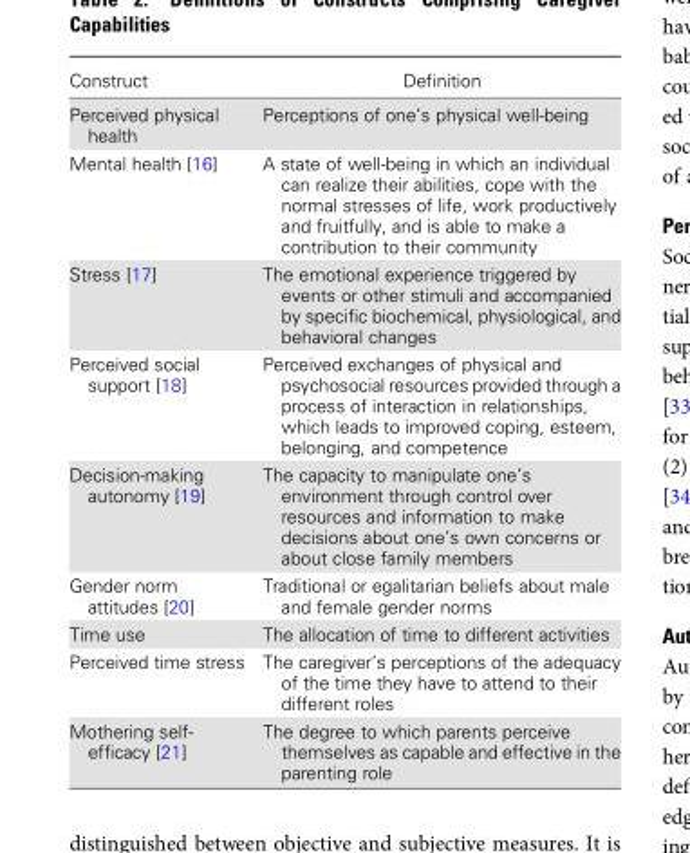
<table><thead><tr><td>Construct</td><td>Definition</td></tr></thead><tbody><tr><td>Perceived physical health</td><td>Perceptions of one’s physical well-being</td></tr><tr><td>Mental health [16]</td><td>A state of well-being in which an individual can realize their abilities, cope with the normal stresses of life, work productively and fruitfully, and is able to make a contribution to their community</td></tr><tr><td>Stress [17]</td><td>The emotional experience triggered by events or other stimuli and accompanied by specific biochemical, physiological, and behavioral changes</td></tr><tr><td>Perceived social support [18]</td><td>Perceived exchanges of physical and psychosocial resources provided through a process of interaction in relationships, which leads to improved coping, esteem, belonging, and competence</td></tr><tr><td>Decision-making autonomy [19]</td><td>The capacity to manipulate one’s environment through control over resources and information to make decisions about one’s own concerns or about close family members</td></tr><tr><td>Gender norm attitudes [20]</td><td>Traditional or egalitarian beliefs about male and female gender norms</td></tr><tr><td>Time use</td><td>The allocation of time to different activities</td></tr><tr><td>Perceived time stress</td><td>The caregiver’s perceptions of the adequacy of the time they have to attend to their different roles</td></tr><tr><td>Mothering self- efficacy [21]</td><td>The degree to which parents perceive themselves as capable and effective in the parenting role</td></tr></tbody></table>